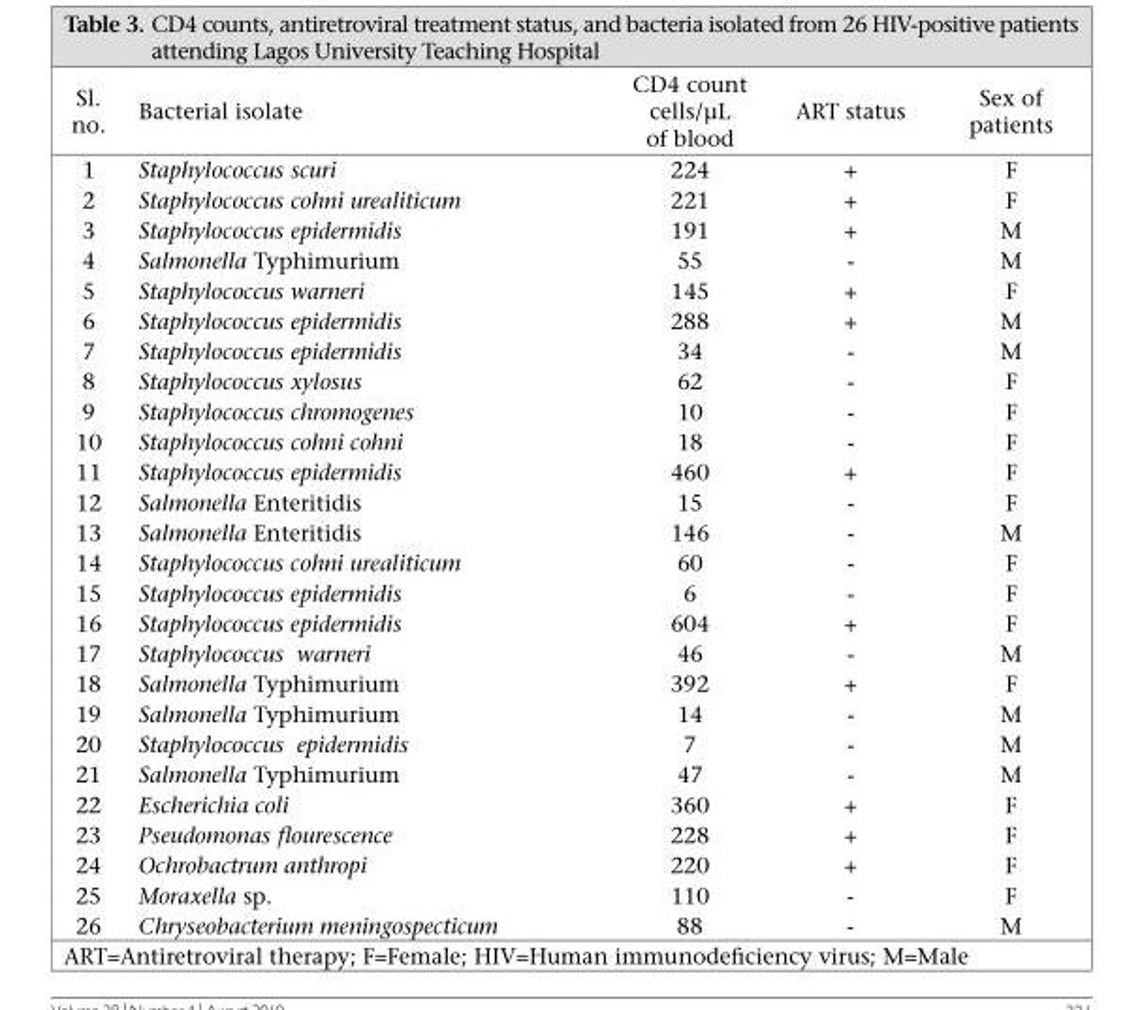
<table><thead><tr><td>Sl. no.</td><td>Bacterial isolate</td><td>CD4 count cells/µL of blood</td><td>ART status</td><td>Sex of patients</td></tr></thead><tbody><tr><td>1</td><td>Staphylococcus scuri</td><td>224</td><td>+</td><td>F</td></tr><tr><td>2</td><td>Staphylococcus cohni urealiticum</td><td>221</td><td>+</td><td>F</td></tr><tr><td>3</td><td>Staphylococcus epidermidis</td><td>191</td><td>+</td><td>M</td></tr><tr><td>4</td><td>Salmonella Typhimurium</td><td>55</td><td>-</td><td>M</td></tr><tr><td>5</td><td>Staphylococcus warneri</td><td>145</td><td>+</td><td>F</td></tr><tr><td>6</td><td>Staphylococcus epidermidis</td><td>288</td><td>+</td><td>M</td></tr><tr><td>7</td><td>Staphylococcus epidermidis</td><td>34</td><td>-</td><td>M</td></tr><tr><td>8</td><td>Staphylococcus xylosus</td><td>62</td><td>-</td><td>F</td></tr><tr><td>9</td><td>Staphylococcus chromogenes</td><td>10</td><td>-</td><td>F</td></tr><tr><td>10</td><td>Staphylococcus cohni cohni</td><td>18</td><td>-</td><td>F</td></tr><tr><td>11</td><td>Staphylococcus epidermidis</td><td>460</td><td>+</td><td>F</td></tr><tr><td>12</td><td>Salmonella Enteritidis</td><td>15</td><td>-</td><td>F</td></tr><tr><td>13</td><td>Salmonella Enteritidis</td><td>146</td><td>-</td><td>M</td></tr><tr><td>14</td><td>Staphylococcus cohni urealiticum</td><td>60</td><td>-</td><td>F</td></tr><tr><td>15</td><td>Staphylococcus epidermidis</td><td>6</td><td>-</td><td>F</td></tr><tr><td>16</td><td>Staphylococcus epidermidis</td><td>604</td><td>+</td><td>F</td></tr><tr><td>17</td><td>Staphylococcus warneri</td><td>46</td><td>-</td><td>M</td></tr><tr><td>18</td><td>Salmonella Typhimurium</td><td>392</td><td>+</td><td>F</td></tr><tr><td>19</td><td>Salmonella Typhimurium</td><td>14</td><td>-</td><td>M</td></tr><tr><td>20</td><td>Staphylococcus epidermidis</td><td>7</td><td>-</td><td>M</td></tr><tr><td>21</td><td>Salmonella Typhimurium</td><td>47</td><td>-</td><td>M</td></tr><tr><td>22</td><td>Escherichia coli</td><td>360</td><td>+</td><td>F</td></tr><tr><td>23</td><td>Pseudomonas flourescence</td><td>228</td><td>+</td><td>F</td></tr><tr><td>24</td><td>Ochrobactrum anthropi</td><td>220</td><td>+</td><td>F</td></tr><tr><td>25</td><td>Moraxella sp.</td><td>110</td><td>-</td><td>F</td></tr><tr><td>26</td><td>Chryseobacterium meningospecticum</td><td>88</td><td>-</td><td>M</td></tr></tbody></table>